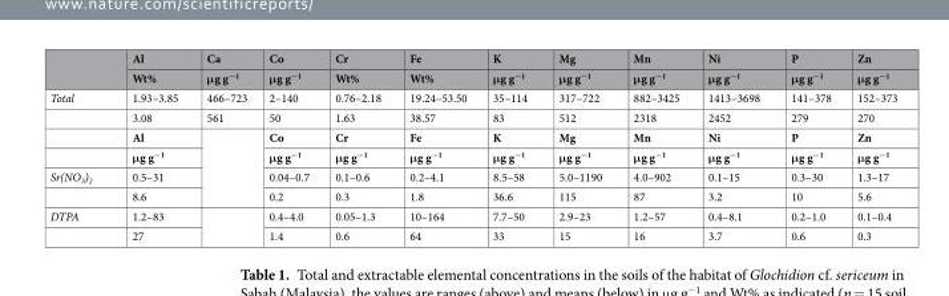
<table><thead><tr><td rowspan="2"></td><td rowspan="2">Al Wt%</td><td rowspan="2">Ca μg g−1</td><td rowspan="2">Co μg g−1</td><td rowspan="2">Cr Wt%</td><td rowspan="2">Fe Wt%</td><td rowspan="2">K μg g−1</td><td rowspan="2">Mg μg g−1</td><td rowspan="2">Mn μg g−1</td><td rowspan="2">Ni μg g−1</td><td rowspan="2">P μg g−1</td><td rowspan="2">Zn μg g−1</td></tr><tr></tr></thead><tbody><tr><td rowspan="4">Total</td><td>1.93–3.85</td><td>466–723</td><td>2–140</td><td>0.76–2.18</td><td>19.24–53.50</td><td>35–114</td><td>317–722</td><td>882–3425</td><td>1413–3698</td><td>141–378</td><td>152–373</td></tr><tr><td>3.08</td><td>561</td><td>50</td><td>1.63</td><td>38.57</td><td>83</td><td>512</td><td>2318</td><td>2452</td><td>279</td><td>270</td></tr><tr><td>Al</td><td rowspan="4"></td><td>Co</td><td>Cr</td><td>Fe</td><td>K</td><td>Mg</td><td>Mn</td><td>Ni</td><td>P</td><td>Zn</td></tr><tr><td>μg g−1</td><td>μg g−1</td><td>μg g−1</td><td>μg g−1</td><td>μg g−1</td><td>μg g−1</td><td>μg g−1</td><td>μg g−1</td><td>μg g−1</td><td>μg g−1</td></tr><tr><td rowspan="2">Sr(NO<sub>3</sub>)<sub>2</sub></td><td>0.5–31</td><td>0.04–0.7</td><td>0.1–0.6</td><td>0.2–4.1</td><td>8.5–58</td><td>5.0–1190</td><td>4.0–902</td><td>0.1–15</td><td>0.3–30</td><td>1.3–17</td></tr><tr><td>8.6</td><td>0.2</td><td>0.3</td><td>1.8</td><td>36.6</td><td>115</td><td>87</td><td>3.2</td><td>10</td><td>5.6</td></tr><tr><td rowspan="2">DTPA</td><td>1.2–83</td><td rowspan="2"></td><td>0.4–4.0</td><td>0.05–1.3</td><td>10–164</td><td>7.7–50</td><td>2.9–23</td><td>1.2–57</td><td>0.4–8.1</td><td>0.2–1.0</td><td>0.1–0.4</td></tr><tr><td>27</td><td>1.4</td><td>0.6</td><td>64</td><td>33</td><td>15</td><td>16</td><td>3.7</td><td>0.6</td><td>0.3</td></tr></tbody></table>